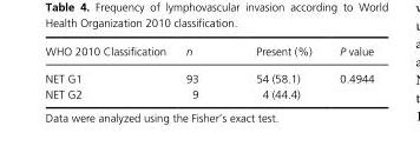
<table><thead><tr><td>WHO 2010 Classification</td><td>n</td><td>Present (%)</td><td>P value</td></tr></thead><tbody><tr><td>NET G1</td><td>93</td><td>54 (58.1)</td><td>0.4944</td></tr><tr><td>NET G2</td><td>9</td><td>4 (44.4)</td><td></td></tr></tbody></table>